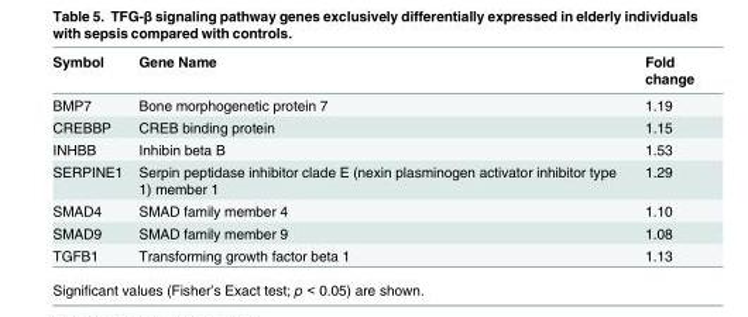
<table><thead><tr><td>Symbol</td><td>Gene Name</td><td>Fold change</td></tr></thead><tbody><tr><td>BMP7</td><td>Bone morphogenetic protein 7</td><td>1.19</td></tr><tr><td>CREBBP</td><td>CREB binding protein</td><td>1.15</td></tr><tr><td>INHBB</td><td>Inhibin beta B</td><td>1.53</td></tr><tr><td>SERPINE1</td><td>Serpin peptidase inhibitor clade E (nexin plasminogen activator inhibitor type 1) member 1</td><td>1.29</td></tr><tr><td>SMAD4</td><td>SMAD family member 4</td><td>1.10</td></tr><tr><td>SMAD9</td><td>SMAD family member 9</td><td>1.08</td></tr><tr><td>TGFB1</td><td>Transforming growth factor beta 1</td><td>1.13</td></tr></tbody></table>